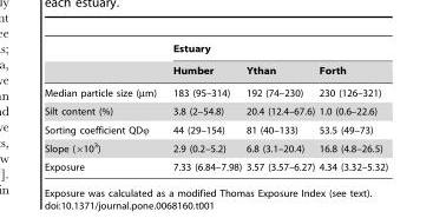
<table><thead><tr><td rowspan="2"></td><td colspan="3">Estuary</td></tr><tr><td>Humber</td><td>Ythan</td><td>Forth</td></tr></thead><tbody><tr><td>Median particle size (µm)</td><td>183 (95–314)</td><td>192 (74–230)</td><td>230 (126–321)</td></tr><tr><td>Silt content (%)</td><td>3.8 (2–54.8)</td><td>20.4 (12.4–67.6)</td><td>1.0 (0.6–22.6)</td></tr><tr><td>Sorting coefficient QDφ</td><td>44 (29–154)</td><td>81 (40–133)</td><td>53.5 (49–73)</td></tr><tr><td>Slope (×10<sup>3</sup>)</td><td>2.9 (0.2–5.2)</td><td>6.8 (3.1–20.4)</td><td>16.8 (4.8–26.5)</td></tr><tr><td>Exposure</td><td>7.33 (6.84–7.98)</td><td>3.57 (3.57–6.27)</td><td>4.34 (3.32–5.32)</td></tr></tbody></table>